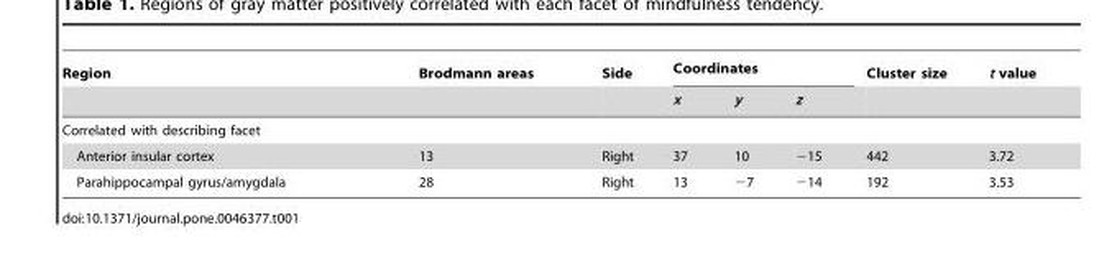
<table><thead><tr><td rowspan="2">Region</td><td rowspan="2">Brodmann areas</td><td rowspan="2">Side</td><td colspan="3">Coordinates</td><td rowspan="2">Cluster size</td><td rowspan="2">t value</td></tr><tr><td>x</td><td>y</td><td>z</td></tr></thead><tbody><tr><td colspan="8">Correlated with describing facet</td></tr><tr><td>Anterior insular cortex</td><td>13</td><td>Right</td><td>37</td><td>10</td><td>−15</td><td>442</td><td>3.72</td></tr><tr><td>Parahippocampal gyrus/amygdala</td><td>28</td><td>Right</td><td>13</td><td>−7</td><td>−14</td><td>192</td><td>3.53</td></tr></tbody></table>